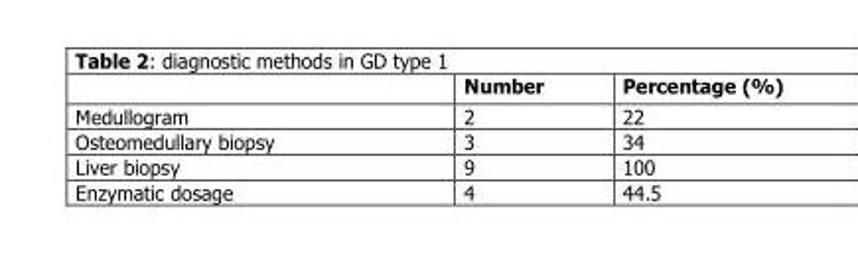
<table><thead><tr><td></td><td>Number</td><td>Percentage (%)</td></tr></thead><tbody><tr><td>Medullogram</td><td>2</td><td>22</td></tr><tr><td>Osteomedullary biopsy</td><td>3</td><td>34</td></tr><tr><td>Liver biopsy</td><td>9</td><td>100</td></tr><tr><td>Enzymatic dosage</td><td>4</td><td>44.5</td></tr></tbody></table>